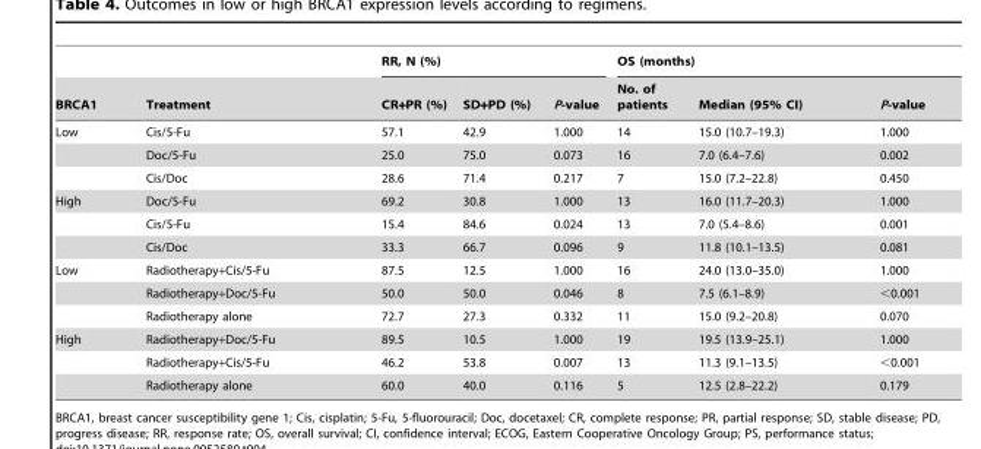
<table><thead><tr><td rowspan="2">BRCA1</td><td rowspan="2">Treatment</td><td colspan="3">RR, N (%)</td><td colspan="3">OS (months)</td></tr><tr><td>CR+PR (%)</td><td>SD+PD (%)</td><td>P-value</td><td>No. of patients</td><td>Median (95% CI)</td><td>P-value</td></tr></thead><tbody><tr><td rowspan="3">Low</td><td>Cis/5-Fu</td><td>57.1</td><td>42.9</td><td>1.000</td><td>14</td><td>15.0 (10.7–19.3)</td><td>1.000</td></tr><tr><td>Doc/5-Fu</td><td>25.0</td><td>75.0</td><td>0.073</td><td>16</td><td>7.0 (6.4–7.6)</td><td>0.002</td></tr><tr><td>Cis/Doc</td><td>28.6</td><td>71.4</td><td>0.217</td><td>7</td><td>15.0 (7.2–22.8)</td><td>0.450</td></tr><tr><td rowspan="3">High</td><td>Doc/5-Fu</td><td>69.2</td><td>30.8</td><td>1.000</td><td>13</td><td>16.0 (11.7–20.3)</td><td>1.000</td></tr><tr><td>Cis/5-Fu</td><td>15.4</td><td>84.6</td><td>0.024</td><td>13</td><td>7.0 (5.4–8.6)</td><td>0.001</td></tr><tr><td>Cis/Doc</td><td>33.3</td><td>66.7</td><td>0.096</td><td>9</td><td>11.8 (10.1–13.5)</td><td>0.081</td></tr><tr><td rowspan="3">Low</td><td>Radiotherapy+Cis/5-Fu</td><td>87.5</td><td>12.5</td><td>1.000</td><td>16</td><td>24.0 (13.0–35.0)</td><td>1.000</td></tr><tr><td>Radiotherapy+Doc/5-Fu</td><td>50.0</td><td>50.0</td><td>0.046</td><td>8</td><td>7.5 (6.1–8.9)</td><td>&lt;0.001</td></tr><tr><td>Radiotherapy alone</td><td>72.7</td><td>27.3</td><td>0.332</td><td>11</td><td>15.0 (9.2–20.8)</td><td>0.070</td></tr><tr><td rowspan="3">High</td><td>Radiotherapy+Doc/5-Fu</td><td>89.5</td><td>10.5</td><td>1.000</td><td>19</td><td>19.5 (13.9–25.1)</td><td>1.000</td></tr><tr><td>Radiotherapy+Cis/5-Fu</td><td>46.2</td><td>53.8</td><td>0.007</td><td>13</td><td>11.3 (9.1–13.5)</td><td>&lt;0.001</td></tr><tr><td>Radiotherapy alone</td><td>60.0</td><td>40.0</td><td>0.116</td><td>5</td><td>12.5 (2.8–22.2)</td><td>0.179</td></tr></tbody></table>